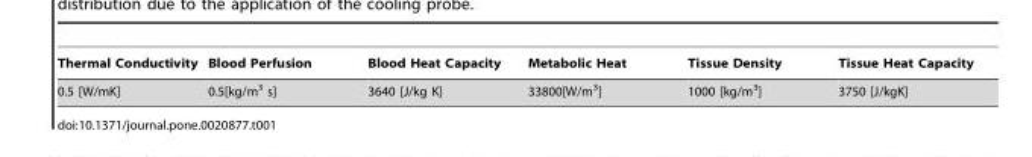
<table><thead><tr><td>Thermal Conductivity</td><td>Blood Perfusion</td><td>Blood Heat Capacity</td><td>Metabolic Heat</td><td>Tissue Density</td><td>Tissue Heat Capacity</td></tr></thead><tbody><tr><td>0.5 [W/mK]</td><td>0.5[kg/m<sup>3</sup> s]</td><td>3640 [J/kg K]</td><td>33800[W/m<sup>3</sup>]</td><td>1000 [kg/m<sup>3</sup>]</td><td>3750 [J/kgK]</td></tr></tbody></table>